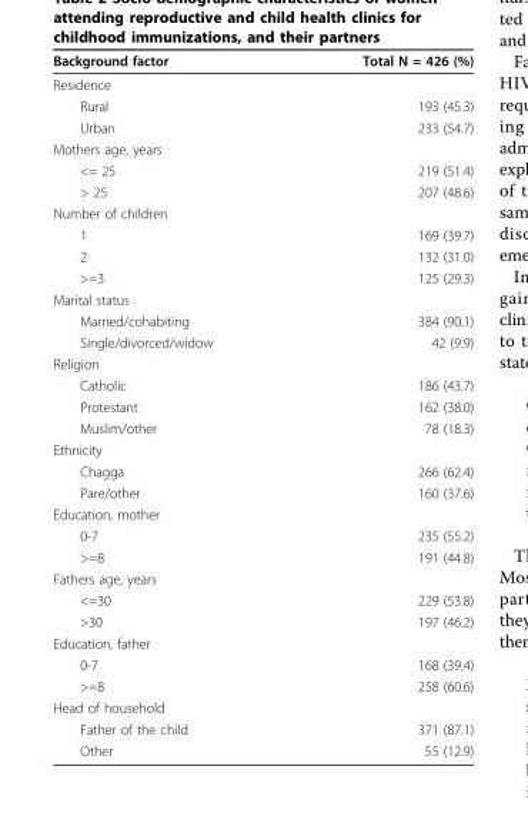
<table><thead><tr><td>Background factor</td><td>Total N = 426 (%)</td></tr></thead><tbody><tr><td colspan="2">Residence</td></tr><tr><td>Rural</td><td>193 (45.3)</td></tr><tr><td>Urban</td><td>233 (54.7)</td></tr><tr><td colspan="2">Mothers age, years</td></tr><tr><td>&lt;= 25</td><td>219 (51.4)</td></tr><tr><td>&gt; 25</td><td>207 (48.6)</td></tr><tr><td colspan="2">Number of children</td></tr><tr><td>1</td><td>169 (39.7)</td></tr><tr><td>2</td><td>132 (31.0)</td></tr><tr><td>&gt;=3</td><td>125 (29.3)</td></tr><tr><td colspan="2">Marital status</td></tr><tr><td>Married/cohabiting</td><td>384 (90.1)</td></tr><tr><td>Single/divorced/widow</td><td>42 (9.9)</td></tr><tr><td colspan="2">Religion</td></tr><tr><td>Catholic</td><td>186 (43.7)</td></tr><tr><td>Protestant</td><td>162 (38.0)</td></tr><tr><td>Muslim/other</td><td>78 (18.3)</td></tr><tr><td colspan="2">Ethnicity</td></tr><tr><td>Chagga</td><td>266 (62.4)</td></tr><tr><td>Pare/other</td><td>160 (37.6)</td></tr><tr><td colspan="2">Education, mother</td></tr><tr><td>0-7</td><td>235 (55.2)</td></tr><tr><td>&gt;=8</td><td>191 (44.8)</td></tr><tr><td colspan="2">Fathers age, years</td></tr><tr><td>&lt;=30</td><td>229 (53.8)</td></tr><tr><td>&gt;30</td><td>197 (46.2)</td></tr><tr><td colspan="2">Education, father</td></tr><tr><td>0-7</td><td>168 (39.4)</td></tr><tr><td>&gt;=8</td><td>258 (60.6)</td></tr><tr><td colspan="2">Head of household</td></tr><tr><td>Father of the child</td><td>371 (87.1)</td></tr><tr><td>Other</td><td>55 (12.9)</td></tr></tbody></table>